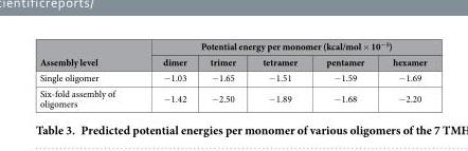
<table><thead><tr><td rowspan="2">Assembly level</td><td colspan="5">Potential energy per monomer (kcal/mol × 10<sup>−5</sup>)</td></tr><tr><td>dimer</td><td>trimer</td><td>tetramer</td><td>pentamer</td><td>hexamer</td></tr></thead><tbody><tr><td>Single oligomer</td><td>− 1.03</td><td>− 1.65</td><td>− 1.51</td><td>− 1.59</td><td>− 1.69</td></tr><tr><td>Six-fold assembly of oligomers</td><td>− 1.42</td><td>− 2.50</td><td>− 1.89</td><td>− 1.68</td><td>− 2.20</td></tr></tbody></table>